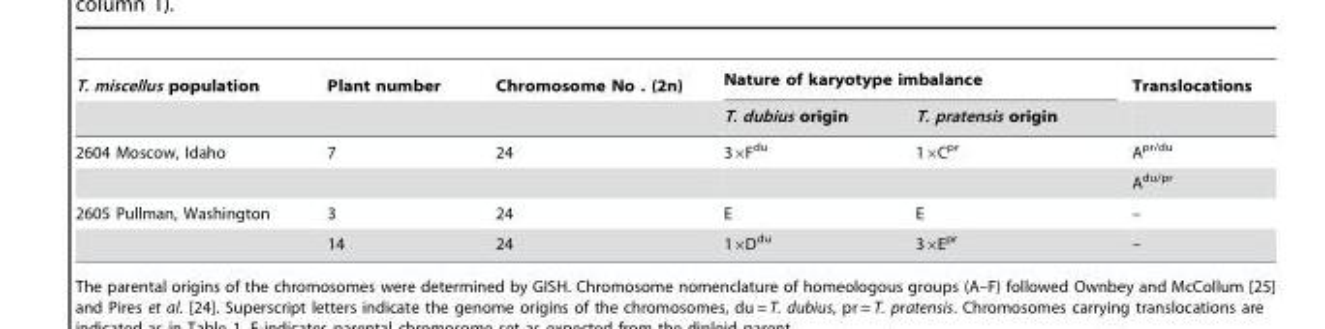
<table><thead><tr><td rowspan="2">T. miscellus population</td><td rowspan="2">Plant number</td><td rowspan="2">Chromosome No . (2n)</td><td colspan="2">Nature of karyotype imbalance</td><td rowspan="2">Translocations</td></tr><tr><td>T. dubius origin</td><td>T. pratensis origin</td></tr></thead><tbody><tr><td rowspan="2">2604 Moscow, Idaho</td><td>7</td><td>24</td><td>3×F<sup>du</sup></td><td>1×C<sup>pr</sup></td><td>A<sup>pr/du</sup></td></tr><tr><td></td><td></td><td></td><td></td><td>A<sup>du/pr</sup></td></tr><tr><td rowspan="2">2605 Pullman, Washington</td><td>3</td><td>24</td><td>E</td><td>E</td><td>–</td></tr><tr><td>14</td><td>24</td><td>1×D<sup>du</sup></td><td>3×E<sup>pr</sup></td><td>–</td></tr></tbody></table>